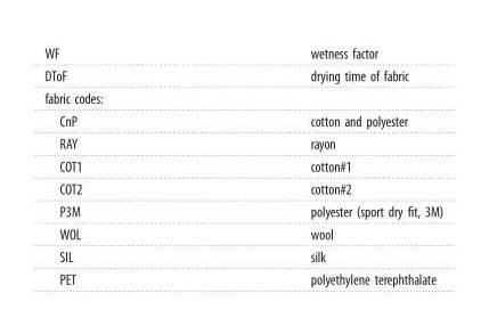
<table><tbody><tr><td>WF</td><td>wetness factor</td></tr><tr><td>DToF</td><td>drying time of fabric</td></tr><tr><td colspan="2">fabric codes:</td></tr><tr><td>CnP</td><td>cotton and polyester</td></tr><tr><td>RAY</td><td>rayon</td></tr><tr><td>COT1</td><td>cotton#1</td></tr><tr><td>COT2</td><td>cotton#2</td></tr><tr><td>P3M</td><td>polyester (sport dry fit, 3M)</td></tr><tr><td>WOL</td><td>wool</td></tr><tr><td>SIL</td><td>silk</td></tr><tr><td>PET</td><td>polyethylene terephthalate</td></tr></tbody></table>